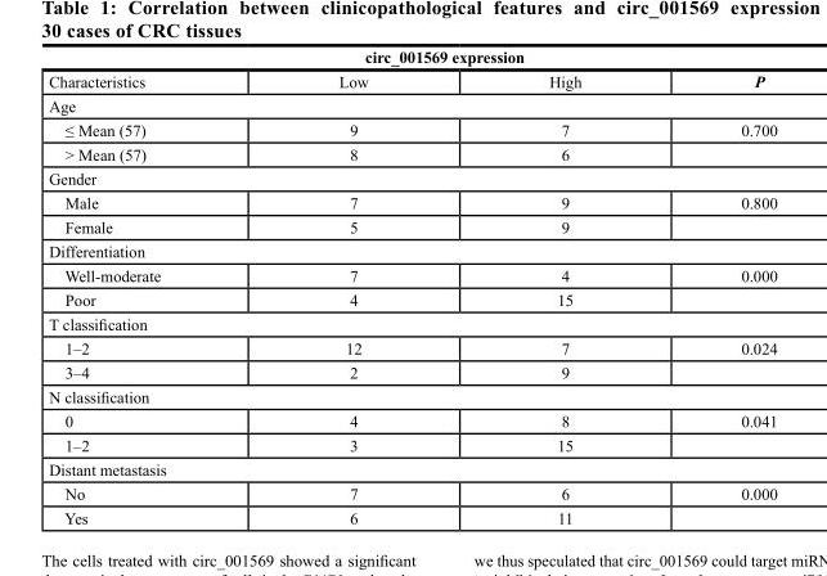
<table><thead><tr><td rowspan="2">Characteristics</td><td colspan="2">circ_001569 expression</td><td rowspan="2">P</td></tr><tr><td>Low</td><td>High</td></tr></thead><tbody><tr><td colspan="4">Age</td></tr><tr><td>≤ Mean (57)</td><td>9</td><td>7</td><td>0.700</td></tr><tr><td>&gt; Mean (57)</td><td>8</td><td>6</td><td></td></tr><tr><td colspan="4">Gender</td></tr><tr><td>Male</td><td>7</td><td>9</td><td>0.800</td></tr><tr><td>Female</td><td>5</td><td>9</td><td></td></tr><tr><td colspan="4">Differentiation</td></tr><tr><td>Well-moderate</td><td>7</td><td>4</td><td>0.000</td></tr><tr><td>Poor</td><td>4</td><td>15</td><td></td></tr><tr><td colspan="4">T classification</td></tr><tr><td>1–2</td><td>12</td><td>7</td><td>0.024</td></tr><tr><td>3–4</td><td>2</td><td>9</td><td></td></tr><tr><td colspan="4">N classification</td></tr><tr><td>0</td><td>4</td><td>8</td><td>0.041</td></tr><tr><td>1–2</td><td>3</td><td>15</td><td></td></tr><tr><td colspan="4">Distant metastasis</td></tr><tr><td>No</td><td>7</td><td>6</td><td>0.000</td></tr><tr><td>Yes</td><td>6</td><td>11</td><td></td></tr></tbody></table>